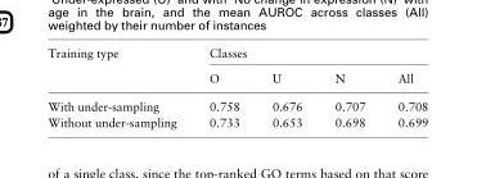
<table><thead><tr><td rowspan="2">Training type</td><td colspan="4">Classes</td></tr><tr><td>O</td><td>U</td><td>N</td><td>All</td></tr></thead><tbody><tr><td>With under-sampling</td><td>0.758</td><td>0.676</td><td>0.707</td><td>0.708</td></tr><tr><td>Without under-sampling</td><td>0.733</td><td>0.653</td><td>0.698</td><td>0.699</td></tr></tbody></table>